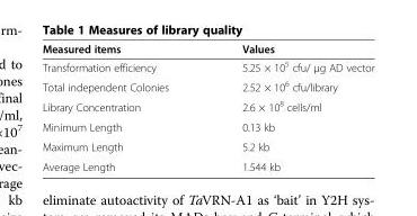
<table><thead><tr><td>Measured items</td><td>Values</td></tr></thead><tbody><tr><td>Transformation efficiency</td><td>5.25 × 10<sup>5</sup> cfu/ μg AD vector</td></tr><tr><td>Total independent Colonies</td><td>2.52 × 10<sup>6</sup> cfu/library</td></tr><tr><td>Library Concentration</td><td>2.6 × 10<sup>8</sup> cells/ml</td></tr><tr><td>Minimum Length</td><td>0.13 kb</td></tr><tr><td>Maximum Length</td><td>5.2 kb</td></tr><tr><td>Average Length</td><td>1.544 kb</td></tr></tbody></table>